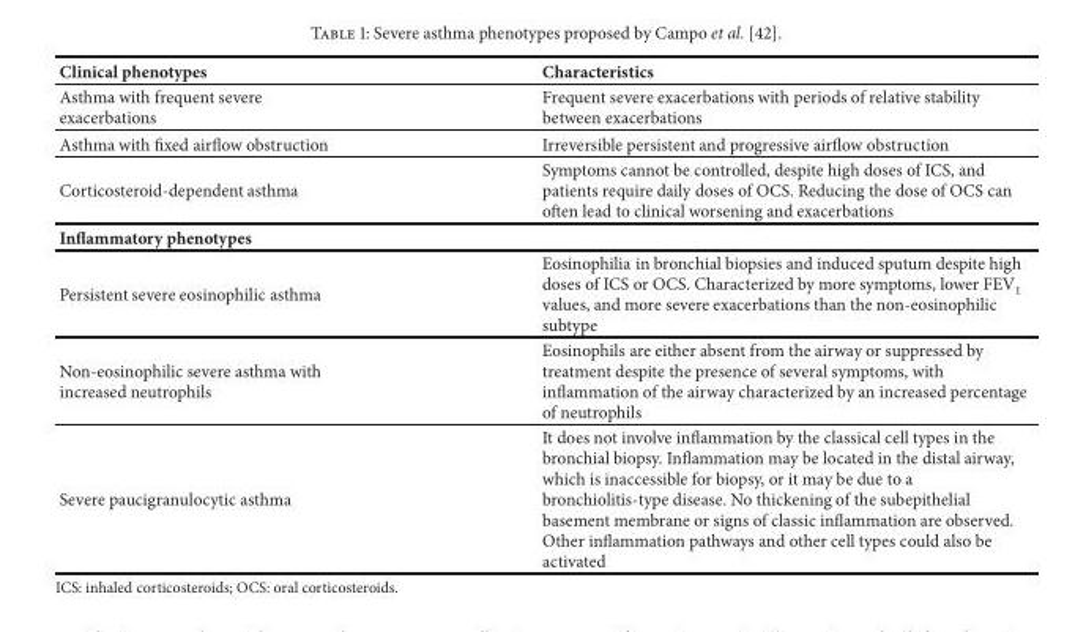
<table><thead><tr><td>Clinical phenotypes</td><td>Characteristics</td></tr></thead><tbody><tr><td>Asthma with frequent severe exacerbations</td><td>Frequent severe exacerbations with periods of relative stability between exacerbations</td></tr><tr><td>Asthma with fixed airflow obstruction</td><td>Irreversible persistent and progressive airflow obstruction</td></tr><tr><td>Corticosteroid-dependent asthma</td><td>Symptoms cannot be controlled, despite high doses of ICS, and patients require daily doses of OCS. Reducing the dose of OCS can often lead to clinical worsening and exacerbations</td></tr><tr><td colspan="2">Inflammatory phenotypes</td></tr><tr><td>Persistent severe eosinophilic asthma</td><td>Eosinophilia in bronchial biopsies and induced sputum despite high doses of ICS or OCS. Characterized by more symptoms, lower FEV<sub>1</sub> values, and more severe exacerbations than the non-eosinophilic subtype</td></tr><tr><td>Non-eosinophilic severe asthma with increased neutrophils</td><td>Eosinophils are either absent from the airway or suppressed by treatment despite the presence of several symptoms, with inflammation of the airway characterized by an increased percentage of neutrophils</td></tr><tr><td>Severe paucigranulocytic asthma</td><td>It does not involve inflammation by the classical cell types in the bronchial biopsy. Inflammation may be located in the distal airway, which is inaccessible for biopsy, or it may be due to a bronchiolitis-type disease. No thickening of the subepithelial basement membrane or signs of classic inflammation are observed. Other inflammation pathways and other cell types could also be activated</td></tr></tbody></table>